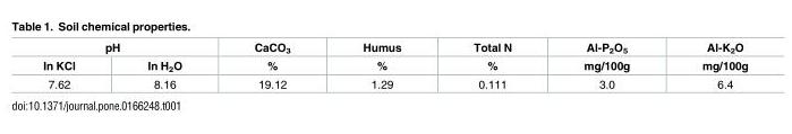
<table><thead><tr><td colspan="2">pH</td><td rowspan="2">CaCO<sub>3</sub> %</td><td rowspan="2">Humus %</td><td rowspan="2">Total N %</td><td rowspan="2">Al-P<sub>2</sub>O<sub>5</sub> mg/100g</td><td rowspan="2">Al-K<sub>2</sub>O mg/100g</td></tr><tr><td>In KCl</td><td>In H<sub>2</sub>O</td></tr></thead><tbody><tr><td>7.62</td><td>8.16</td><td>19.12</td><td>1.29</td><td>0.111</td><td>3.0</td><td>6.4</td></tr></tbody></table>